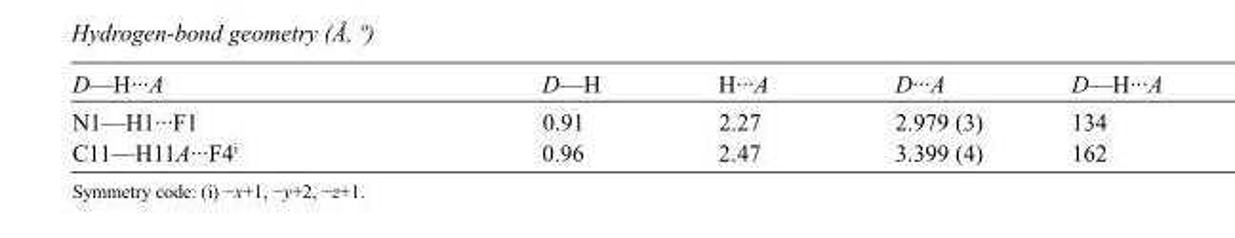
<table><tbody><tr><td>D—H···A</td><td>D—H</td><td>H···A</td><td>D···A</td><td>D—H···A</td></tr><tr><td>N1—H1···F1</td><td>0.91</td><td>2.27</td><td>2.979 (3)</td><td>134</td></tr><tr><td>C11—H11A···F4<sup>i</sup></td><td>0.96</td><td>2.47</td><td>3.399 (4)</td><td>162</td></tr></tbody></table>